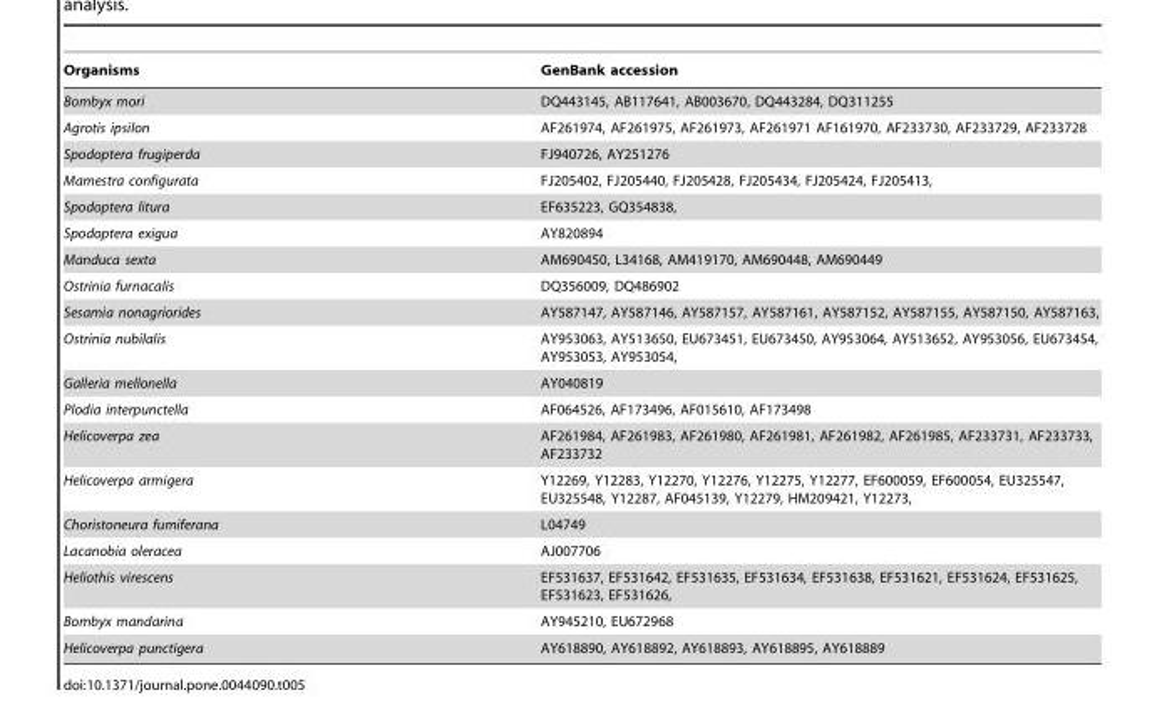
<table><thead><tr><td>Organisms</td><td>GenBank accession</td></tr></thead><tbody><tr><td>Bombyx mori</td><td>DQ443145, AB117641, AB003670, DQ443284, DQ311255</td></tr><tr><td>Agrotis ipsilon</td><td>AF261974, AF261975, AF261973, AF261971 AF161970, AF233730, AF233729, AF233728</td></tr><tr><td>Spodoptera frugiperda</td><td>FJ940726, AY251276</td></tr><tr><td>Mamestra configurata</td><td>FJ205402, FJ205440, FJ205428, FJ205434, FJ205424, FJ205413,</td></tr><tr><td>Spodoptera litura</td><td>EF635223, GQ354838,</td></tr><tr><td>Spodoptera exigua</td><td>AY820894</td></tr><tr><td>Manduca sexta</td><td>AM690450, L34168, AM419170, AM690448, AM690449</td></tr><tr><td>Ostrinia furnacalis</td><td>DQ356009, DQ486902</td></tr><tr><td>Sesamia nonagriorides</td><td>AY587147, AY587146, AY587157, AY587161, AY587152, AY587155, AY587150, AY587163,</td></tr><tr><td>Ostrinia nubilalis</td><td>AY953063, AY513650, EU673451, EU673450, AY953064, AY513652, AY953056, EU673454, AY953053, AY953054,</td></tr><tr><td>Galleria mellonella</td><td>AY040819</td></tr><tr><td>Plodia interpunctella</td><td>AF064526, AF173496, AF015610, AF173498</td></tr><tr><td>Helicoverpa zea</td><td>AF261984, AF261983, AF261980, AF261981, AF261982, AF261985, AF233731, AF233733, AF233732</td></tr><tr><td>Helicoverpa armigera</td><td>Y12269, Y12283, Y12270, Y12276, Y12275, Y12277, EF600059, EF600054, EU325547, EU325548, Y12287, AF045139, Y12279, HM209421, Y12273,</td></tr><tr><td>Choristoneura fumiferana</td><td>L04749</td></tr><tr><td>Lacanobia oleracea</td><td>AJ007706</td></tr><tr><td>Heliothis virescens</td><td>EF531637, EF531642, EF531635, EF531634, EF531638, EF531621, EF531624, EF531625, EF531623, EF531626,</td></tr><tr><td>Bombyx mandarina</td><td>AY945210, EU672968</td></tr><tr><td>Helicoverpa punctigera</td><td>AY618890, AY618892, AY618893, AY618895, AY618889</td></tr></tbody></table>